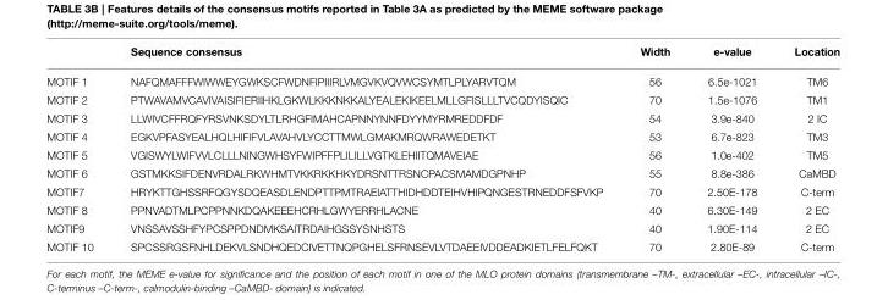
<table><thead><tr><td></td><td>Sequence consensus</td><td>Width</td><td>e-value</td><td>Location</td></tr></thead><tbody><tr><td>MOTIF 1</td><td>NAFQMAFFFWIWWEYGWKSCFWDNFIPIIIRLVMGVKVQVWCSYMTLPLYARVTQM</td><td>56</td><td>6.5e-1021</td><td>TM6</td></tr><tr><td>MOTIF 2</td><td>PTWAVAMVCAVIVAISIFIERIIHKLGKWLKKKNKKALYEALEKIKEELMLLGFISLLLTVCQDYISQIC</td><td>70</td><td>1.5e-1076</td><td>TM1</td></tr><tr><td>MOTIF 3</td><td>LLWIVCFFRQFYRSVNKSDYLTLRHGFIMAHCAPNNYNNFDYYMYRMREDDFDF</td><td>54</td><td>3.9e-840</td><td>2 IC</td></tr><tr><td>MOTIF 4</td><td>EGKVPFASYEALHQLHIFIFVLAVAHVLYCCTTMWLGMAKMRQWRAWEDETKT</td><td>53</td><td>6.7e-823</td><td>TM3</td></tr><tr><td>MOTIF 5</td><td>VGISWYLWIFVVLCLLLNINGWHSYFWIPFFPLILILLVGTKLEHIITQMAVEIAE</td><td>56</td><td>1.0e-402</td><td>TM5</td></tr><tr><td>MOTIF 6</td><td>GSTMKKSIFDENVRDALRKWHMTVKKRKKHKYDRSNTTRSNCPACSMAMDGPNHP</td><td>55</td><td>8.8e-386</td><td>CaMBD</td></tr><tr><td>MOTIF7</td><td>HRYKTTGHSSRFQGYSDQEASDLENDPTTPMTRAEIATTHIDHDDTEIHVHIPQNGESTRNEDDFSFVKP</td><td>70</td><td>2.50E-178</td><td>C-term</td></tr><tr><td>MOTIF 8</td><td>PPNVADTMLPCPPNNKDQAKEEEHCRHLGWYERRHLACNE</td><td>40</td><td>6.30E-149</td><td>2 EC</td></tr><tr><td>MOTIF9</td><td>VNSSAVSSHFYPCSPPDNDMKSAITRDAIHGSSYSNHSTS</td><td>40</td><td>1.90E-114</td><td>2 EC</td></tr><tr><td>MOTIF 10</td><td>SPCSSRGSFNHLDEKVLSNDHQEDCIVETTNQPGHELSFRNSEVLVTDAEEIVDDEADKIETLFELFQKT</td><td>70</td><td>2.80E-89</td><td>C-term</td></tr></tbody></table>